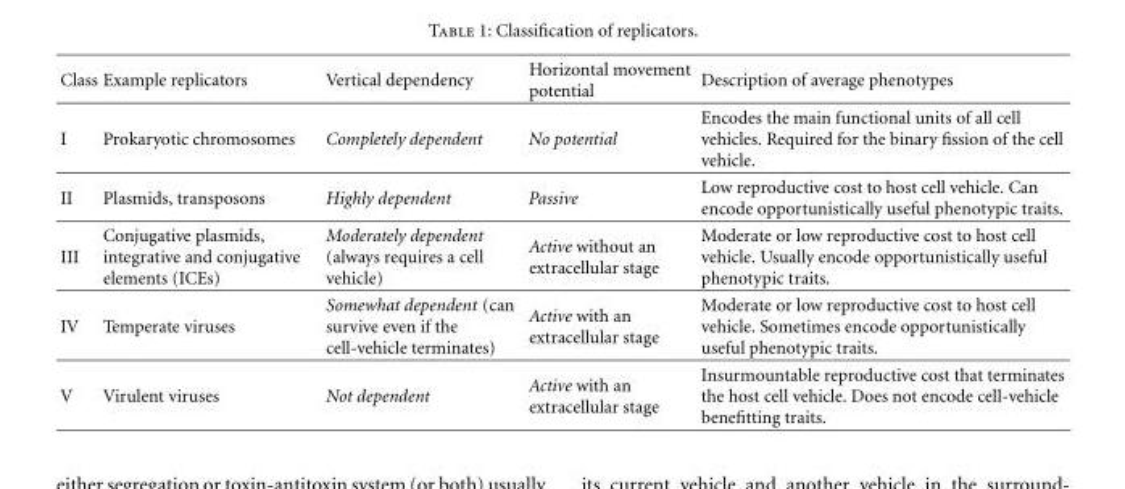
<table><thead><tr><td>Class</td><td>Example replicators</td><td>Vertical dependency</td><td>Horizontal movement potential</td><td>Description of average phenotypes</td></tr></thead><tbody><tr><td>I</td><td>Prokaryotic chromosomes</td><td>Completely dependent</td><td>No potential</td><td>Encodes the main functional units of all cell vehicles. Required for the binary fission of the cell vehicle.</td></tr><tr><td>II</td><td>Plasmids, transposons</td><td>Highly dependent</td><td>Passive</td><td>Low reproductive cost to host cell vehicle. Can encode opportunistically useful phenotypic traits.</td></tr><tr><td>III</td><td>Conjugative plasmids, integrative and conjugative elements (ICEs)</td><td>Moderately dependent (always requires a cell vehicle)</td><td>Active without an extracellular stage</td><td>Moderate or low reproductive cost to host cell vehicle. Usually encode opportunistically useful phenotypic traits.</td></tr><tr><td>IV</td><td>Temperate viruses</td><td>Somewhat dependent (can survive even if the cell-vehicle terminates)</td><td>Active with an extracellular stage</td><td>Moderate or low reproductive cost to host cell vehicle. Sometimes encode opportunistically useful phenotypic traits.</td></tr><tr><td>V</td><td>Virulent viruses</td><td>Not dependent</td><td>Active with an extracellular stage</td><td>Insurmountable reproductive cost that terminates the host cell vehicle. Does not encode cell-vehicle benefitting traits.</td></tr></tbody></table>